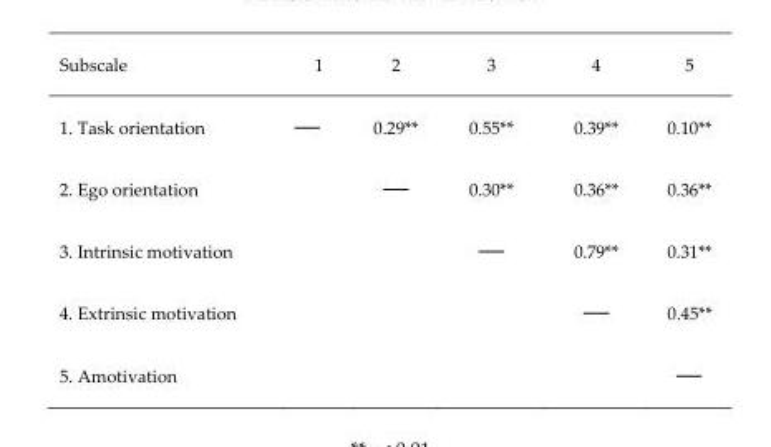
<table><thead><tr><td>Subscale</td><td>1</td><td>2</td><td>3</td><td>4</td><td>5</td></tr></thead><tbody><tr><td>1. Task orientation</td><td>──</td><td>0.29**</td><td>0.55**</td><td>0.39**</td><td>0.10**</td></tr><tr><td>2. Ego orientation</td><td></td><td>──</td><td>0.30**</td><td>0.36**</td><td>0.36**</td></tr><tr><td>3. Intrinsic motivation</td><td></td><td></td><td>──</td><td>0.79**</td><td>0.31**</td></tr><tr><td>4. Extrinsic motivation</td><td></td><td></td><td></td><td>──</td><td>0.45**</td></tr><tr><td>5. Amotivation</td><td></td><td></td><td></td><td></td><td>──</td></tr></tbody></table>